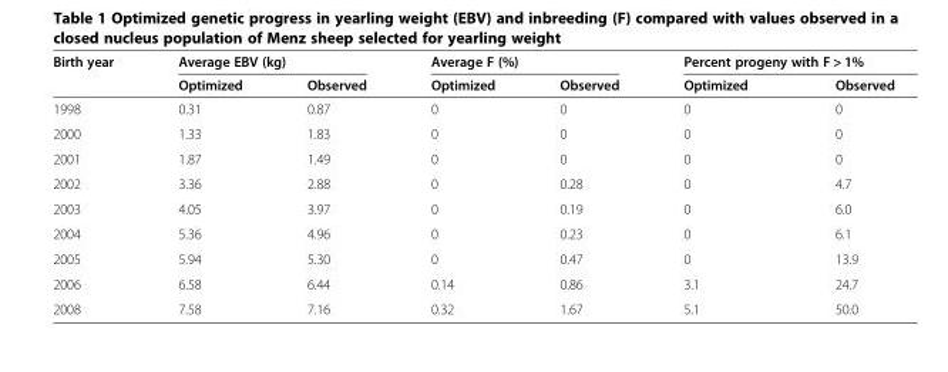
<table><thead><tr><td rowspan="2">Birth year</td><td colspan="2">Average EBV (kg)</td><td colspan="2">Average F (%)</td><td colspan="2">Percent progeny with F &gt; 1%</td></tr><tr><td>Optimized</td><td>Observed</td><td>Optimized</td><td>Observed</td><td>Optimized</td><td>Observed</td></tr></thead><tbody><tr><td>1998</td><td>0.31</td><td>0.87</td><td>0</td><td>0</td><td>0</td><td>0</td></tr><tr><td>2000</td><td>1.33</td><td>1.83</td><td>0</td><td>0</td><td>0</td><td>0</td></tr><tr><td>2001</td><td>1.87</td><td>1.49</td><td>0</td><td>0</td><td>0</td><td>0</td></tr><tr><td>2002</td><td>3.36</td><td>2.88</td><td>0</td><td>0.28</td><td>0</td><td>4.7</td></tr><tr><td>2003</td><td>4.05</td><td>3.97</td><td>0</td><td>0.19</td><td>0</td><td>6.0</td></tr><tr><td>2004</td><td>5.36</td><td>4.96</td><td>0</td><td>0.23</td><td>0</td><td>6.1</td></tr><tr><td>2005</td><td>5.94</td><td>5.30</td><td>0</td><td>0.47</td><td>0</td><td>13.9</td></tr><tr><td>2006</td><td>6.58</td><td>6.44</td><td>0.14</td><td>0.86</td><td>3.1</td><td>24.7</td></tr><tr><td>2008</td><td>7.58</td><td>7.16</td><td>0.32</td><td>1.67</td><td>5.1</td><td>50.0</td></tr></tbody></table>